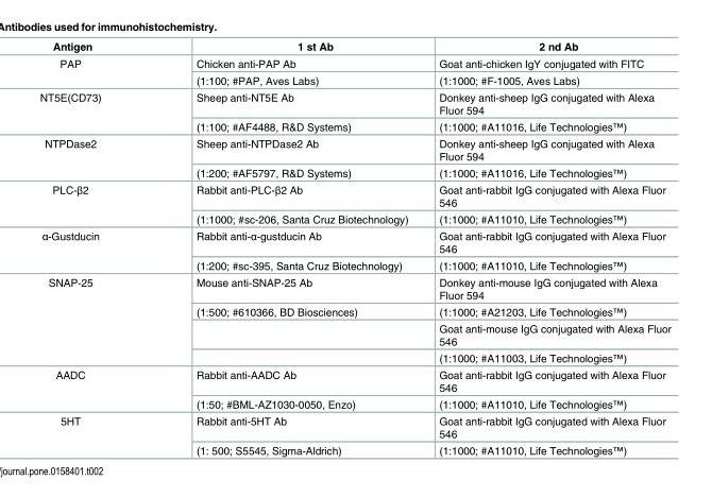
<table><thead><tr><td>Antigen</td><td>1 st Ab</td><td>2 nd Ab</td></tr></thead><tbody><tr><td rowspan="2">PAP</td><td>Chicken anti-PAP Ab</td><td>Goat anti-chicken IgY conjugated with FITC</td></tr><tr><td>(1:100; #PAP, Aves Labs)</td><td>(1:1000; #F-1005, Aves Labs)</td></tr><tr><td rowspan="2">NT5E(CD73)</td><td>Sheep anti-NT5E Ab</td><td>Donkey anti-sheep IgG conjugated with Alexa Fluor 594</td></tr><tr><td>(1:100; #AF4488, R&amp;D Systems)</td><td>(1:1000; #A11016, Life Technologies<sup>™</sup>)</td></tr><tr><td rowspan="2">NTPDase2</td><td>Sheep anti-NTPDase2 Ab</td><td>Donkey anti-sheep IgG conjugated with Alexa Fluor 594</td></tr><tr><td>(1:200; #AF5797, R&amp;D Systems)</td><td>(1:1000; #A11016, Life Technologies<sup>™</sup>)</td></tr><tr><td rowspan="2">PLC-β2</td><td>Rabbit anti-PLC-β2 Ab</td><td>Goat anti-rabbit IgG conjugated with Alexa Fluor 546</td></tr><tr><td>(1:1000; #sc-206, Santa Cruz Biotechnology)</td><td>(1:1000; #A11010, Life Technologies<sup>™</sup>)</td></tr><tr><td rowspan="2">α-Gustducin</td><td>Rabbit anti-α-gustducin Ab</td><td>Goat anti-rabbit IgG conjugated with Alexa Fluor 546</td></tr><tr><td>(1:200; #sc-395, Santa Cruz Biotechnology)</td><td>(1:1000; #A11010, Life Technologies<sup>™</sup>)</td></tr><tr><td rowspan="4">SNAP-25</td><td>Mouse anti-SNAP-25 Ab</td><td>Donkey anti-mouse IgG conjugated with Alexa Fluor 594</td></tr><tr><td>(1:500; #610366, BD Biosciences)</td><td>(1:1000; #A21203, Life Technologies<sup>™</sup>)</td></tr><tr><td></td><td>Goat anti-mouse IgG conjugated with Alexa Fluor 546</td></tr><tr><td></td><td>(1:1000; #A11003, Life Technologies<sup>™</sup>)</td></tr><tr><td rowspan="2">AADC</td><td>Rabbit anti-AADC Ab</td><td>Goat anti-rabbit IgG conjugated with Alexa Fluor 546</td></tr><tr><td>(1:50; #BML-AZ1030-0050, Enzo)</td><td>(1:1000; #A11010, Life Technologies<sup>™</sup>)</td></tr><tr><td rowspan="2">5HT</td><td>Rabbit anti-5HT Ab</td><td>Goat anti-rabbit IgG conjugated with Alexa Fluor 546</td></tr><tr><td>(1: 500; S5545, Sigma-Aldrich)</td><td>(1:1000; #A11010, Life Technologies<sup>™</sup>)</td></tr></tbody></table>